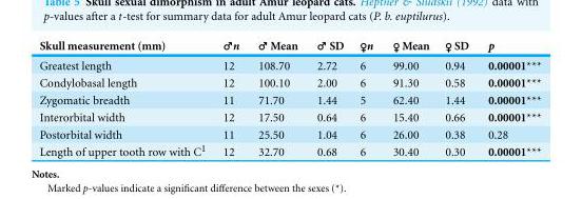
<table><thead><tr><td>Skull measurement (mm)</td><td>♂n</td><td>♂ Mean</td><td>♂ SD</td><td>♀n</td><td>♀ Mean</td><td>♀ SD</td><td>p</td></tr></thead><tbody><tr><td>Greatest length</td><td>12</td><td>108.70</td><td>2.72</td><td>6</td><td>99.00</td><td>0.94</td><td>0.00001***</td></tr><tr><td>Condylobasal length</td><td>12</td><td>100.10</td><td>2.00</td><td>6</td><td>91.30</td><td>0.58</td><td>0.00001***</td></tr><tr><td>Zygomatic breadth</td><td>11</td><td>71.70</td><td>1.44</td><td>5</td><td>62.40</td><td>1.44</td><td>0.00001***</td></tr><tr><td>Interorbital width</td><td>12</td><td>17.50</td><td>0.64</td><td>6</td><td>15.40</td><td>0.66</td><td>0.00001***</td></tr><tr><td>Postorbital width</td><td>11</td><td>25.50</td><td>1.04</td><td>6</td><td>26.00</td><td>0.38</td><td>0.28</td></tr><tr><td>Length of upper tooth row with C<sup>1</sup></td><td>12</td><td>32.70</td><td>0.68</td><td>6</td><td>30.40</td><td>0.30</td><td>0.00001***</td></tr></tbody></table>